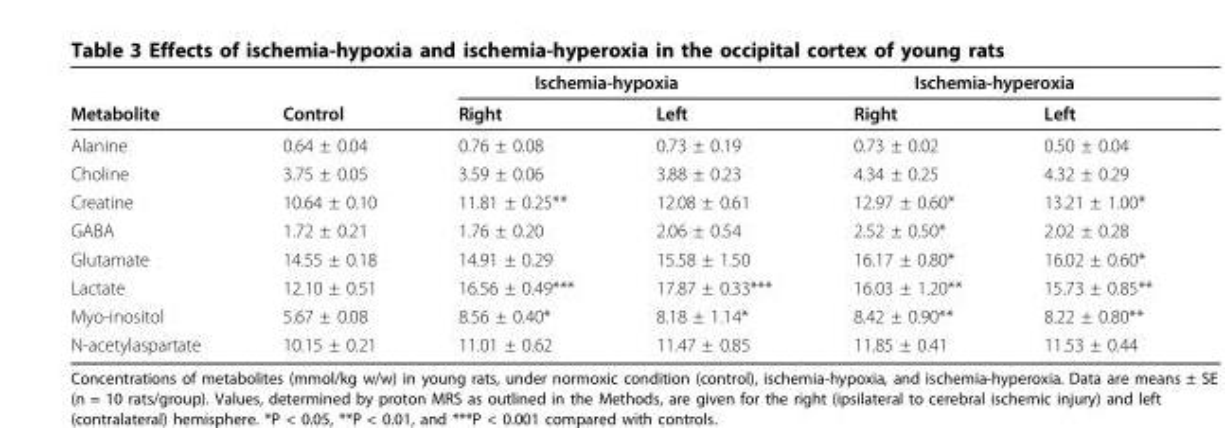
<table><thead><tr><td rowspan="2">Metabolite</td><td rowspan="2">Control</td><td colspan="2">Ischemia-hypoxia</td><td colspan="2">Ischemia-hyperoxia</td></tr><tr><td>Right</td><td>Left</td><td>Right</td><td>Left</td></tr></thead><tbody><tr><td>Alanine</td><td>0.64 ± 0.04</td><td>0.76 ± 0.08</td><td>0.73 ± 0.19</td><td>0.73 ± 0.02</td><td>0.50 ± 0.04</td></tr><tr><td>Choline</td><td>3.75 ± 0.05</td><td>3.59 ± 0.06</td><td>3.88 ± 0.23</td><td>4.34 ± 0.25</td><td>4.32 ± 0.29</td></tr><tr><td>Creatine</td><td>10.64 ± 0.10</td><td>11.81 ± 0.25**</td><td>12.08 ± 0.61</td><td>12.97 ± 0.60*</td><td>13.21 ± 1.00*</td></tr><tr><td>GABA</td><td>1.72 ± 0.21</td><td>1.76 ± 0.20</td><td>2.06 ± 0.54</td><td>2.52 ± 0.50*</td><td>2.02 ± 0.28</td></tr><tr><td>Glutamate</td><td>14.55 ± 0.18</td><td>14.91 ± 0.29</td><td>15.58 ± 1.50</td><td>16.17 ± 0.80*</td><td>16.02 ± 0.60*</td></tr><tr><td>Lactate</td><td>12.10 ± 0.51</td><td>16.56 ± 0.49***</td><td>17.87 ± 0.33***</td><td>16.03 ± 1.20**</td><td>15.73 ± 0.85**</td></tr><tr><td>Myo-inositol</td><td>5.67 ± 0.08</td><td>8.56 ± 0.40*</td><td>8.18 ± 1.14*</td><td>8.42 ± 0.90**</td><td>8.22 ± 0.80**</td></tr><tr><td>N-acetylaspartate</td><td>10.15 ± 0.21</td><td>11.01 ± 0.62</td><td>11.47 ± 0.85</td><td>11.85 ± 0.41</td><td>11.53 ± 0.44</td></tr></tbody></table>